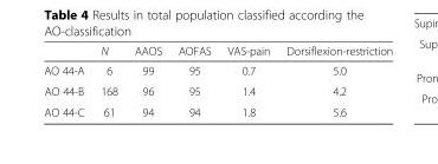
<table><thead><tr><td></td><td>N</td><td>AAOS</td><td>AOFAS</td><td>VAS-pain</td><td>Dorsiflexion-restriction</td></tr></thead><tbody><tr><td>AO 44-A</td><td>6</td><td>99</td><td>95</td><td>0.7</td><td>5.0</td></tr><tr><td>AO 44-B</td><td>168</td><td>96</td><td>95</td><td>1.4</td><td>4.2</td></tr><tr><td>AO 44-C</td><td>61</td><td>94</td><td>94</td><td>1.8</td><td>5.6</td></tr></tbody></table>